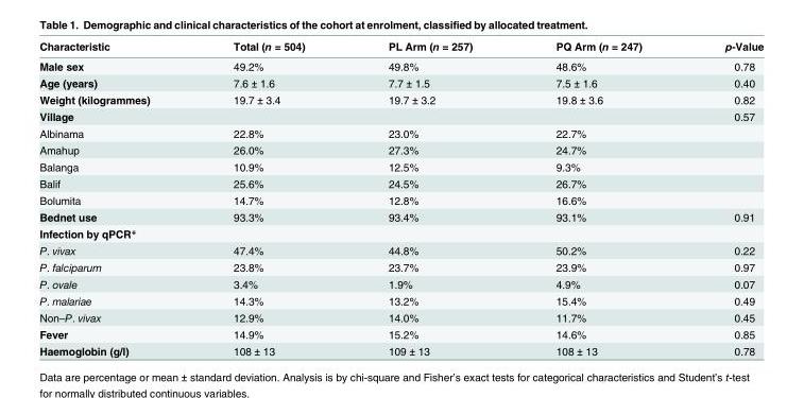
<table><thead><tr><td>Characteristic</td><td>Total (n = 504)</td><td>PL Arm (n = 257)</td><td>PQ Arm (n = 247)</td><td>p-Value</td></tr></thead><tbody><tr><td>Male sex</td><td>49.2%</td><td>49.8%</td><td>48.6%</td><td>0.78</td></tr><tr><td>Age (years)</td><td>7.6 ± 1.6</td><td>7.7 ± 1.5</td><td>7.5 ± 1.6</td><td>0.40</td></tr><tr><td>Weight (kilogrammes)</td><td>19.7 ± 3.4</td><td>19.7 ± 3.2</td><td>19.8 ± 3.6</td><td>0.82</td></tr><tr><td>Village</td><td></td><td></td><td></td><td>0.57</td></tr><tr><td>Albinama</td><td>22.8%</td><td>23.0%</td><td>22.7%</td><td></td></tr><tr><td>Amahup</td><td>26.0%</td><td>27.3%</td><td>24.7%</td><td></td></tr><tr><td>Balanga</td><td>10.9%</td><td>12.5%</td><td>9.3%</td><td></td></tr><tr><td>Balif</td><td>25.6%</td><td>24.5%</td><td>26.7%</td><td></td></tr><tr><td>Bolumita</td><td>14.7%</td><td>12.8%</td><td>16.6%</td><td></td></tr><tr><td>Bednet use</td><td>93.3%</td><td>93.4%</td><td>93.1%</td><td>0.91</td></tr><tr><td colspan="5">Infection by qPCR*</td></tr><tr><td>P. vivax</td><td>47.4%</td><td>44.8%</td><td>50.2%</td><td>0.22</td></tr><tr><td>P. falciparum</td><td>23.8%</td><td>23.7%</td><td>23.9%</td><td>0.97</td></tr><tr><td>P. ovale</td><td>3.4%</td><td>1.9%</td><td>4.9%</td><td>0.07</td></tr><tr><td>P. malariae</td><td>14.3%</td><td>13.2%</td><td>15.4%</td><td>0.49</td></tr><tr><td>Non–P. vivax</td><td>12.9%</td><td>14.0%</td><td>11.7%</td><td>0.45</td></tr><tr><td>Fever</td><td>14.9%</td><td>15.2%</td><td>14.6%</td><td>0.85</td></tr><tr><td>Haemoglobin (g/l)</td><td>108 ± 13</td><td>109 ± 13</td><td>108 ± 13</td><td>0.78</td></tr></tbody></table>